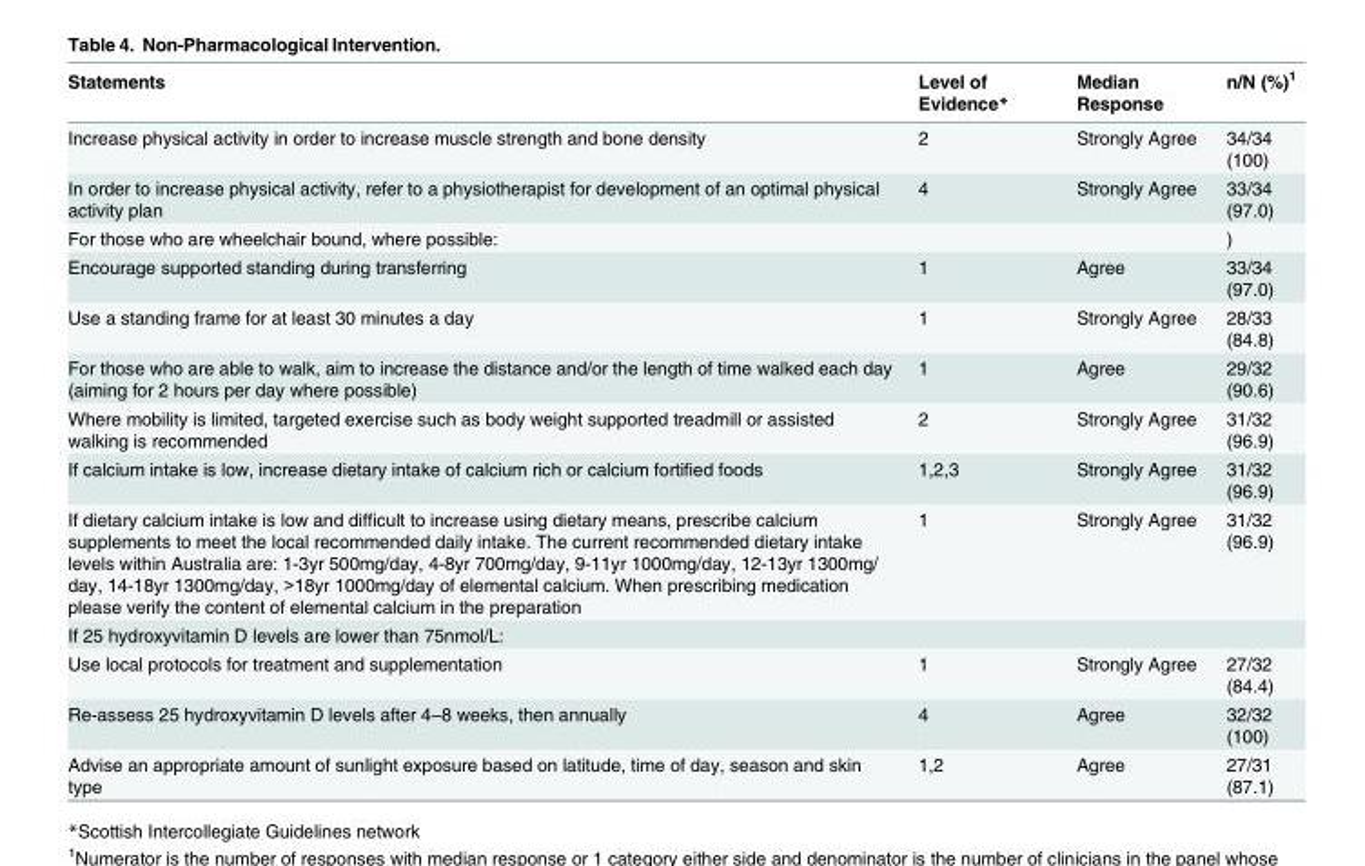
<table><thead><tr><td>Statements</td><td>Level of Evidence*</td><td>Median Response</td><td>n/N (%)<sup>1</sup></td></tr></thead><tbody><tr><td>Increase physical activity in order to increase muscle strength and bone density</td><td>2</td><td>Strongly Agree</td><td>34/34 (100)</td></tr><tr><td>In order to increase physical activity, refer to a physiotherapist for development of an optimal physical activity plan</td><td>4</td><td>Strongly Agree</td><td>33/34 (97.0)</td></tr><tr><td>For those who are wheelchair bound, where possible:</td><td></td><td></td><td>)</td></tr><tr><td>Encourage supported standing during transferring</td><td>1</td><td>Agree</td><td>33/34 (97.0)</td></tr><tr><td>Use a standing frame for at least 30 minutes a day</td><td>1</td><td>Strongly Agree</td><td>28/33 (84.8)</td></tr><tr><td>For those who are able to walk, aim to increase the distance and/or the length of time walked each day (aiming for 2 hours per day where possible)</td><td>1</td><td>Agree</td><td>29/32 (90.6)</td></tr><tr><td>Where mobility is limited, targeted exercise such as body weight supported treadmill or assisted walking is recommended</td><td>2</td><td>Strongly Agree</td><td>31/32 (96.9)</td></tr><tr><td>If calcium intake is low, increase dietary intake of calcium rich or calcium fortified foods</td><td>1,2,3</td><td>Strongly Agree</td><td>31/32 (96.9)</td></tr><tr><td>If dietary calcium intake is low and difficult to increase using dietary means, prescribe calcium supplements to meet the local recommended daily intake. The current recommended dietary intake levels within Australia are: 1-3yr 500mg/day, 4-8yr 700mg/day, 9-11yr 1000mg/day, 12-13yr 1300mg/ day, 14-18yr 1300mg/day, &gt;18yr 1000mg/day of elemental calcium. When prescribing medication please verify the content of elemental calcium in the preparation</td><td>1</td><td>Strongly Agree</td><td>31/32 (96.9)</td></tr><tr><td colspan="4">If 25 hydroxyvitamin D levels are lower than 75nmol/L:</td></tr><tr><td>Use local protocols for treatment and supplementation</td><td>1</td><td>Strongly Agree</td><td>27/32 (84.4)</td></tr><tr><td>Re-assess 25 hydroxyvitamin D levels after 4–8 weeks, then annually</td><td>4</td><td>Agree</td><td>32/32 (100)</td></tr><tr><td>Advise an appropriate amount of sunlight exposure based on latitude, time of day, season and skin type</td><td>1,2</td><td>Agree</td><td>27/31 (87.1)</td></tr></tbody></table>